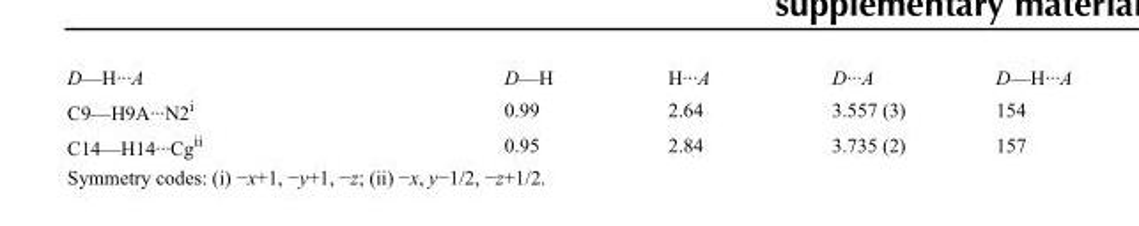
<table><tbody><tr><td>D—H···A</td><td>D—H</td><td>H···A</td><td>D···A</td><td>D—H···A</td></tr><tr><td>C9—H9A···N2<sup>i</sup></td><td>0.99</td><td>2.64</td><td>3.557 (3)</td><td>154</td></tr><tr><td>C14—H14···Cg<sup>ii</sup></td><td>0.95</td><td>2.84</td><td>3.735 (2)</td><td>157</td></tr></tbody></table>